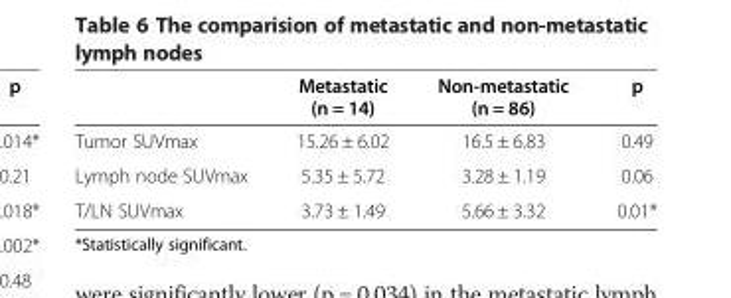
<table><thead><tr><td></td><td>Metastatic (n = 14)</td><td>Non-metastatic (n = 86)</td><td>p</td></tr></thead><tbody><tr><td>Tumor SUVmax</td><td>15.26 ± 6.02</td><td>16.5 ± 6.83</td><td>0.49</td></tr><tr><td>Lymph node SUVmax</td><td>5.35 ± 5.72</td><td>3.28 ± 1.19</td><td>0.06</td></tr><tr><td>T/LN SUVmax</td><td>3.73 ± 1.49</td><td>5.66 ± 3.32</td><td>0.01*</td></tr></tbody></table>